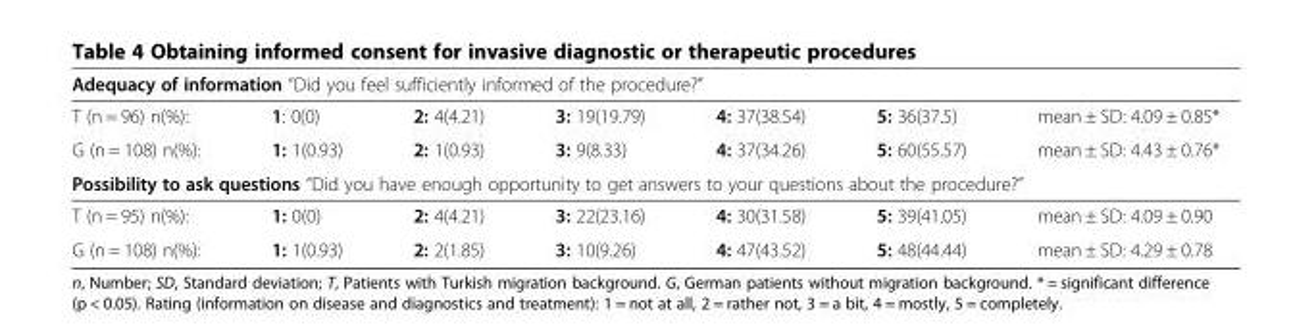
<table><thead><tr><td colspan="7">Adequacy of information “Did you feel sufficiently informed of the procedure?”</td></tr><tr><td>T (n = 96) n(%):</td><td>1: 0(0)</td><td>2: 4(4.21)</td><td>3: 19(19.79)</td><td>4: 37(38.54)</td><td>5: 36(37.5)</td><td>mean ± SD: 4.09 ± 0.85*</td></tr></thead><tbody><tr><td>G (n = 108) n(%):</td><td>1: 1(0.93)</td><td>2: 1(0.93)</td><td>3: 9(8.33)</td><td>4: 37(34.26)</td><td>5: 60(55.57)</td><td>mean ± SD: 4.43 ± 0.76*</td></tr><tr><td colspan="7">Possibility to ask questions “Did you have enough opportunity to get answers to your questions about the procedure?”</td></tr><tr><td>T (n = 95) n(%):</td><td>1: 0(0)</td><td>2: 4(4.21)</td><td>3: 22(23.16)</td><td>4: 30(31.58)</td><td>5: 39(41.05)</td><td>mean ± SD: 4.09 ± 0.90</td></tr><tr><td>G (n = 108) n(%):</td><td>1: 1(0.93)</td><td>2: 2(1.85)</td><td>3: 10(9.26)</td><td>4: 47(43.52)</td><td>5: 48(44.44)</td><td>mean ± SD: 4.29 ± 0.78</td></tr></tbody></table>